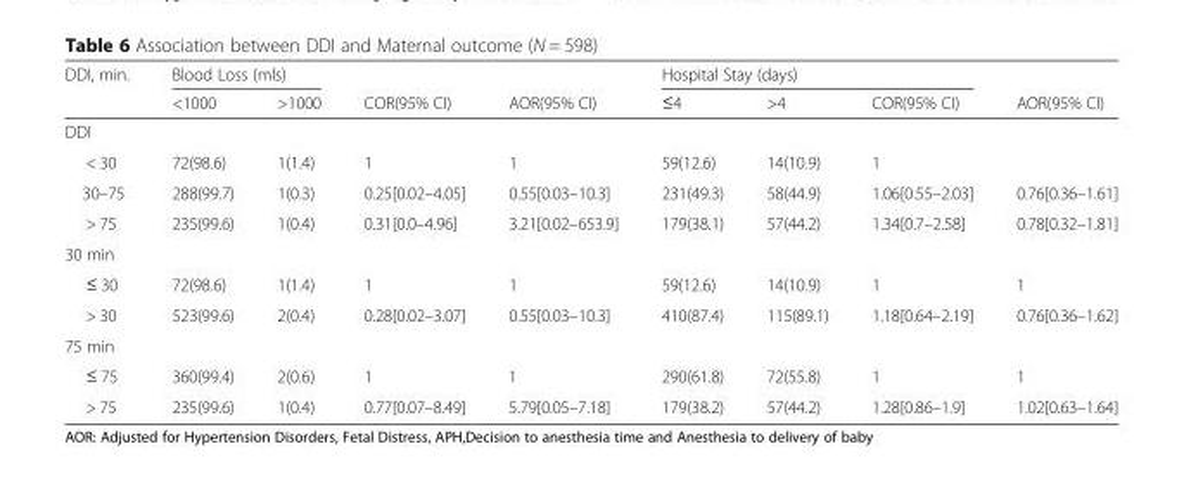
<table><thead><tr><td rowspan="2">DDI, min.</td><td colspan="2">Blood Loss (mls)</td><td rowspan="2">COR(95% CI)</td><td rowspan="2">AOR(95% CI)</td><td colspan="3">Hospital Stay (days)</td><td rowspan="2">AOR(95% CI)</td></tr><tr><td>&lt;1000</td><td>&gt;1000</td><td>≤4</td><td>&gt;4</td><td>COR(95% CI)</td></tr></thead><tbody><tr><td colspan="9">DDI</td></tr><tr><td>&lt; 30</td><td>72(98.6)</td><td>1(1.4)</td><td>1</td><td>1</td><td>59(12.6)</td><td>14(10.9)</td><td>1</td><td></td></tr><tr><td>30–75</td><td>288(99.7)</td><td>1(0.3)</td><td>0.25[0.02–4.05]</td><td>0.55[0.03–10.3]</td><td>231(49.3)</td><td>58(44.9)</td><td>1.06[0.55–2.03]</td><td>0.76[0.36–1.61]</td></tr><tr><td>&gt; 75</td><td>235(99.6)</td><td>1(0.4)</td><td>0.31[0.0–4.96]</td><td>3.21[0.02–653.9]</td><td>179(38.1)</td><td>57(44.2)</td><td>1.34[0.7–2.58]</td><td>0.78[0.32–1.81]</td></tr><tr><td colspan="9">30 min</td></tr><tr><td>≤ 30</td><td>72(98.6)</td><td>1(1.4)</td><td>1</td><td>1</td><td>59(12.6)</td><td>14(10.9)</td><td>1</td><td>1</td></tr><tr><td>&gt; 30</td><td>523(99.6)</td><td>2(0.4)</td><td>0.28[0.02–3.07]</td><td>0.55[0.03–10.3]</td><td>410(87.4)</td><td>115(89.1)</td><td>1.18[0.64–2.19]</td><td>0.76[0.36–1.62]</td></tr><tr><td colspan="9">75 min</td></tr><tr><td>≤ 75</td><td>360(99.4)</td><td>2(0.6)</td><td>1</td><td>1</td><td>290(61.8)</td><td>72(55.8)</td><td>1</td><td>1</td></tr><tr><td>&gt; 75</td><td>235(99.6)</td><td>1(0.4)</td><td>0.77[0.07–8.49]</td><td>5.79[0.05–7.18]</td><td>179(38.2)</td><td>57(44.2)</td><td>1.28[0.86–1.9]</td><td>1.02[0.63–1.64]</td></tr></tbody></table>